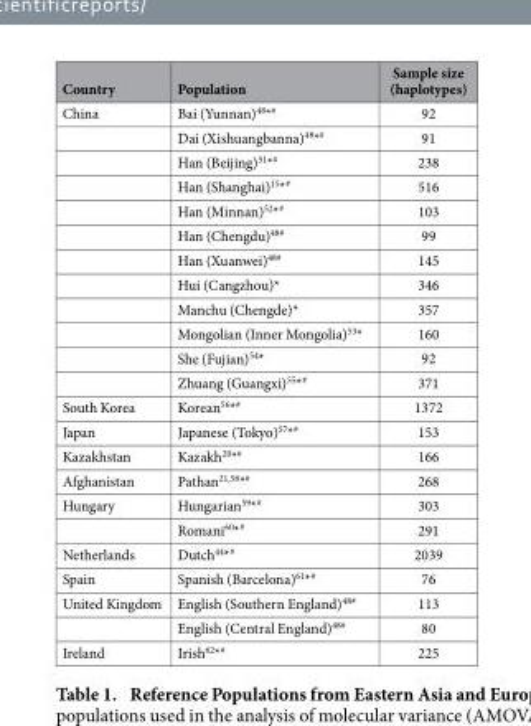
<table><thead><tr><td>Country</td><td>Population</td><td>Sample size (haplotypes)</td></tr></thead><tbody><tr><td rowspan="12">China</td><td>Bai (Yunnan)<sup>48</sup>*#</td><td>92</td></tr><tr><td>Dai (Xishuangbanna)<sup>48</sup>*#</td><td>91</td></tr><tr><td>Han (Beijing)<sup>51</sup>*#</td><td>238</td></tr><tr><td>Han (Shanghai)<sup>15</sup>*#</td><td>516</td></tr><tr><td>Han (Minnan)<sup>52</sup>*#</td><td>103</td></tr><tr><td>Han (Chengdu)<sup>48#</sup></td><td>99</td></tr><tr><td>Han (Xuanwei)<sup>48#</sup></td><td>145</td></tr><tr><td>Hui (Cangzhou)*</td><td>346</td></tr><tr><td>Manchu (Chengde)*</td><td>357</td></tr><tr><td>Mongolian (Inner Mongolia)<sup>53</sup>*</td><td>160</td></tr><tr><td>She (Fujian)<sup>54</sup>*</td><td>92</td></tr><tr><td>Zhuang (Guangxi)<sup>55</sup>*#</td><td>371</td></tr><tr><td>South Korea</td><td>Korean<sup>56</sup>*#</td><td>1372</td></tr><tr><td>Japan</td><td>Japanese (Tokyo)<sup>57</sup>*#</td><td>153</td></tr><tr><td>Kazakhstan</td><td>Kazakh<sup>20</sup>*#</td><td>166</td></tr><tr><td>Afghanistan</td><td>Pathan<sup>21</sup>,<sup>58</sup>*#</td><td>268</td></tr><tr><td rowspan="2">Hungary</td><td>Hungarian<sup>59</sup>*#</td><td>303</td></tr><tr><td>Romani<sup>60</sup>*#</td><td>291</td></tr><tr><td>Netherlands</td><td>Dutch<sup>44</sup>*#</td><td>2039</td></tr><tr><td>Spain</td><td>Spanish (Barcelona)<sup>61</sup>*#</td><td>76</td></tr><tr><td rowspan="2">United Kingdom</td><td>English (Southern England)<sup>48#</sup></td><td>113</td></tr><tr><td>English (Central England)<sup>48#</sup></td><td>80</td></tr><tr><td>Ireland</td><td>Irish<sup>62</sup>*#</td><td>225</td></tr></tbody></table>